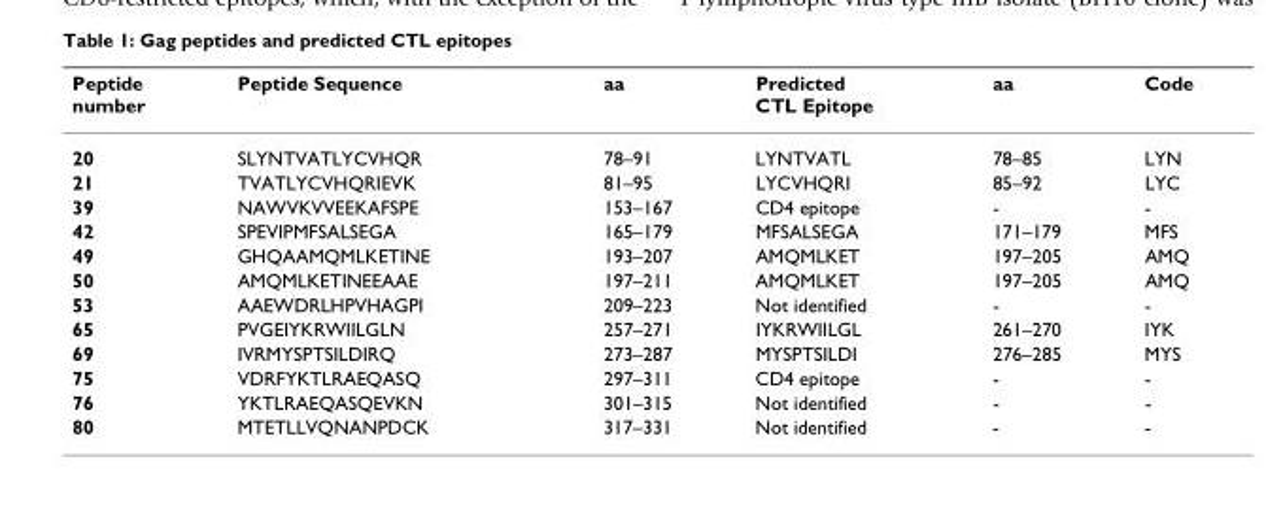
<table><thead><tr><td>Peptide number</td><td>Peptide Sequence</td><td>aa</td><td>Predicted CTL Epitope</td><td>aa</td><td>Code</td></tr></thead><tbody><tr><td>20</td><td>SLYNTVATLYCVHQR</td><td>78–91</td><td>LYNTVATL</td><td>78–85</td><td>LYN</td></tr><tr><td>21</td><td>TVATLYCVHQRIEVK</td><td>81–95</td><td>LYCVHQRI</td><td>85–92</td><td>LYC</td></tr><tr><td>39</td><td>NAWVKVVEEKAFSPE</td><td>153–167</td><td>CD4 epitope</td><td>-</td><td>-</td></tr><tr><td>42</td><td>SPEVIPMFSALSEGA</td><td>165–179</td><td>MFSALSEGA</td><td>171–179</td><td>MFS</td></tr><tr><td>49</td><td>GHQAAMQMLKETINE</td><td>193–207</td><td>AMQMLKET</td><td>197–205</td><td>AMQ</td></tr><tr><td>50</td><td>AMQMLKETINEEAAE</td><td>197–211</td><td>AMQMLKET</td><td>197–205</td><td>AMQ</td></tr><tr><td>53</td><td>AAEWDRLHPVHAGPI</td><td>209–223</td><td>Not identified</td><td>-</td><td>-</td></tr><tr><td>65</td><td>PVGEIYKRWIILGLN</td><td>257–271</td><td>IYKRWIILGL</td><td>261–270</td><td>IYK</td></tr><tr><td>69</td><td>IVRMYSPTSILDIRQ</td><td>273–287</td><td>MYSPTSILDI</td><td>276–285</td><td>MYS</td></tr><tr><td>75</td><td>VDRFYKTLRAEQASQ</td><td>297–311</td><td>CD4 epitope</td><td>-</td><td>-</td></tr><tr><td>76</td><td>YKTLRAEQASQEVKN</td><td>301–315</td><td>Not identified</td><td>-</td><td>-</td></tr><tr><td>80</td><td>MTETLLVQNANPDCK</td><td>317–331</td><td>Not identified</td><td>-</td><td>-</td></tr></tbody></table>